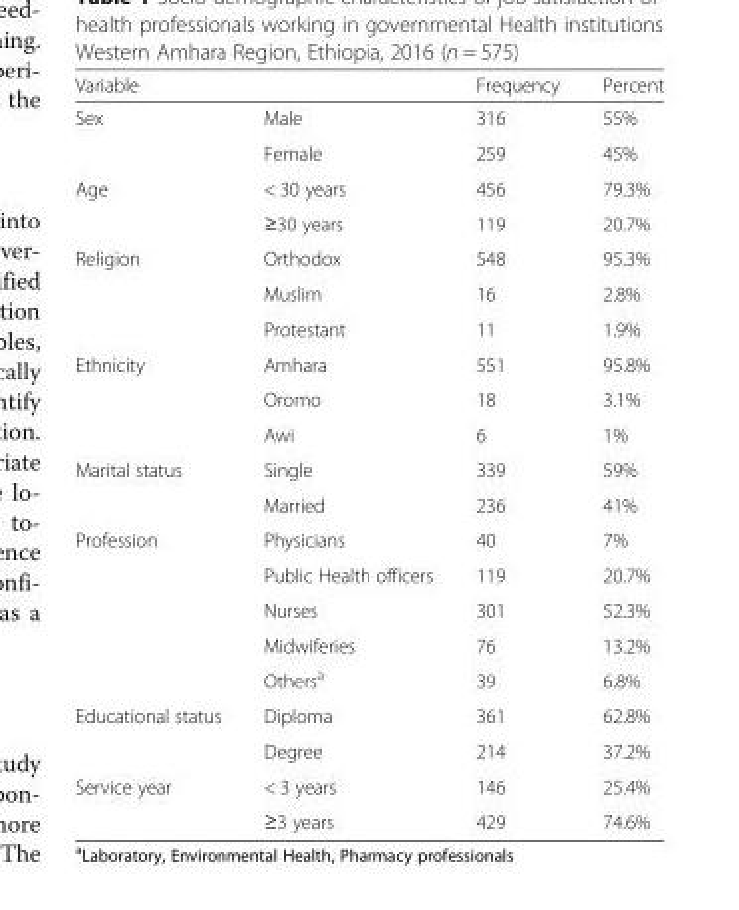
<table><thead><tr><td>Variable</td><td></td><td>Frequency</td><td>Percent</td></tr></thead><tbody><tr><td rowspan="2">Sex</td><td>Male</td><td>316</td><td>55%</td></tr><tr><td>Female</td><td>259</td><td>45%</td></tr><tr><td rowspan="2">Age</td><td>&lt; 30 years</td><td>456</td><td>79.3%</td></tr><tr><td>≥30 years</td><td>119</td><td>20.7%</td></tr><tr><td rowspan="3">Religion</td><td>Orthodox</td><td>548</td><td>95.3%</td></tr><tr><td>Muslim</td><td>16</td><td>2.8%</td></tr><tr><td>Protestant</td><td>11</td><td>1.9%</td></tr><tr><td rowspan="3">Ethnicity</td><td>Amhara</td><td>551</td><td>95.8%</td></tr><tr><td>Oromo</td><td>18</td><td>3.1%</td></tr><tr><td>Awi</td><td>6</td><td>1%</td></tr><tr><td rowspan="2">Marital status</td><td>Single</td><td>339</td><td>59%</td></tr><tr><td>Married</td><td>236</td><td>41%</td></tr><tr><td rowspan="5">Profession</td><td>Physicians</td><td>40</td><td>7%</td></tr><tr><td>Public Health officers</td><td>119</td><td>20.7%</td></tr><tr><td>Nurses</td><td>301</td><td>52.3%</td></tr><tr><td>Midwiferies</td><td>76</td><td>13.2%</td></tr><tr><td>Others<sup>a</sup></td><td>39</td><td>6.8%</td></tr><tr><td rowspan="2">Educational status</td><td>Diploma</td><td>361</td><td>62.8%</td></tr><tr><td>Degree</td><td>214</td><td>37.2%</td></tr><tr><td rowspan="2">Service year</td><td>&lt; 3 years</td><td>146</td><td>25.4%</td></tr><tr><td>≥3 years</td><td>429</td><td>74.6%</td></tr></tbody></table>